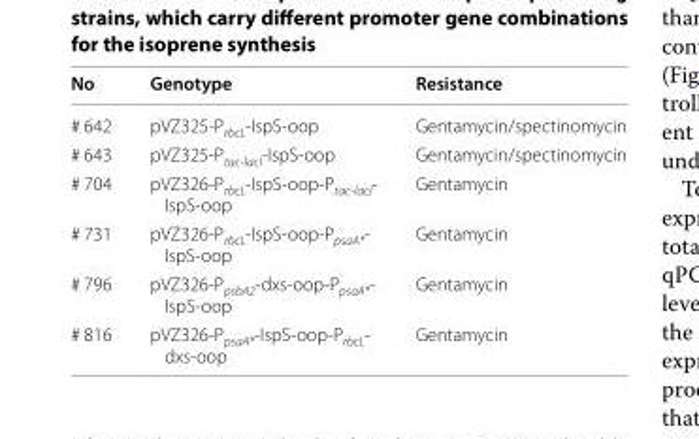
<table><thead><tr><td>No</td><td>Genotype</td><td>Resistance</td></tr></thead><tbody><tr><td># 642</td><td>pVZ325-P<sub>rbcL</sub>-IspS-oop</td><td>Gentamycin/spectinomycin</td></tr><tr><td># 643</td><td>pVZ325-P<sub>tac-lacI</sub>-IspS-oop</td><td>Gentamycin/spectinomycin</td></tr><tr><td># 704</td><td>pVZ326-P<sub>rbcL</sub>-IspS-oop-P<sub>tac-lacI</sub>- IspS-oop</td><td>Gentamycin</td></tr><tr><td># 731</td><td>pVZ326-P<sub>rbcL</sub>-IspS-oop-P<sub>psaA*</sub>- IspS-oop</td><td>Gentamycin</td></tr><tr><td># 796</td><td>pVZ326-P<sub>psbA2</sub>-dxs-oop-P<sub>psaA*</sub>- IspS-oop</td><td>Gentamycin</td></tr><tr><td># 816</td><td>pVZ326-P<sub>psaA*</sub>-IspS-oop-P<sub>rbcL</sub>- dxs-oop</td><td>Gentamycin</td></tr></tbody></table>